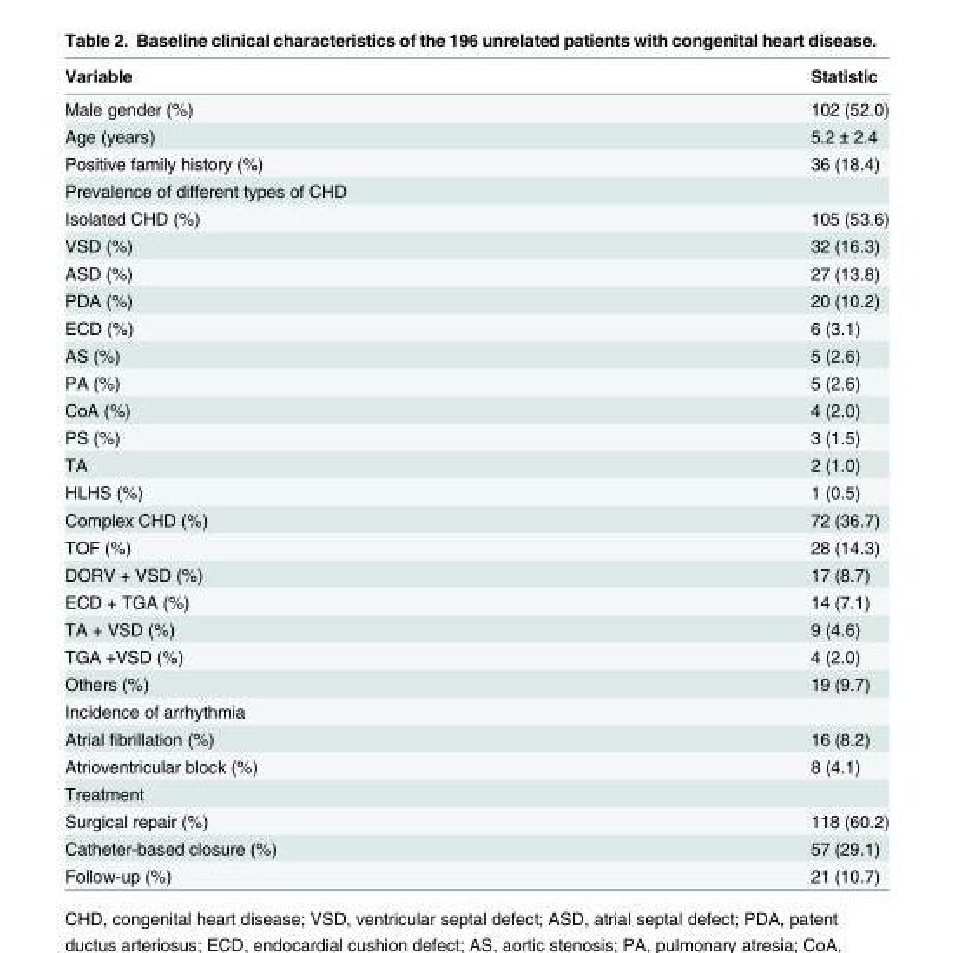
<table><thead><tr><td>Variable</td><td>Statistic</td></tr></thead><tbody><tr><td>Male gender (%)</td><td>102 (52.0)</td></tr><tr><td>Age (years)</td><td>5.2 ± 2.4</td></tr><tr><td>Positive family history (%)</td><td>36 (18.4)</td></tr><tr><td colspan="2">Prevalence of different types of CHD</td></tr><tr><td>Isolated CHD (%)</td><td>105 (53.6)</td></tr><tr><td>VSD (%)</td><td>32 (16.3)</td></tr><tr><td>ASD (%)</td><td>27 (13.8)</td></tr><tr><td>PDA (%)</td><td>20 (10.2)</td></tr><tr><td>ECD (%)</td><td>6 (3.1)</td></tr><tr><td>AS (%)</td><td>5 (2.6)</td></tr><tr><td>PA (%)</td><td>5 (2.6)</td></tr><tr><td>CoA (%)</td><td>4 (2.0)</td></tr><tr><td>PS (%)</td><td>3 (1.5)</td></tr><tr><td>TA</td><td>2 (1.0)</td></tr><tr><td>HLHS (%)</td><td>1 (0.5)</td></tr><tr><td>Complex CHD (%)</td><td>72 (36.7)</td></tr><tr><td>TOF (%)</td><td>28 (14.3)</td></tr><tr><td>DORV + VSD (%)</td><td>17 (8.7)</td></tr><tr><td>ECD + TGA (%)</td><td>14 (7.1)</td></tr><tr><td>TA + VSD (%)</td><td>9 (4.6)</td></tr><tr><td>TGA +VSD (%)</td><td>4 (2.0)</td></tr><tr><td>Others (%)</td><td>19 (9.7)</td></tr><tr><td colspan="2">Incidence of arrhythmia</td></tr><tr><td>Atrial fibrillation (%)</td><td>16 (8.2)</td></tr><tr><td>Atrioventricular block (%)</td><td>8 (4.1)</td></tr><tr><td colspan="2">Treatment</td></tr><tr><td>Surgical repair (%)</td><td>118 (60.2)</td></tr><tr><td>Catheter-based closure (%)</td><td>57 (29.1)</td></tr><tr><td>Follow-up (%)</td><td>21 (10.7)</td></tr></tbody></table>